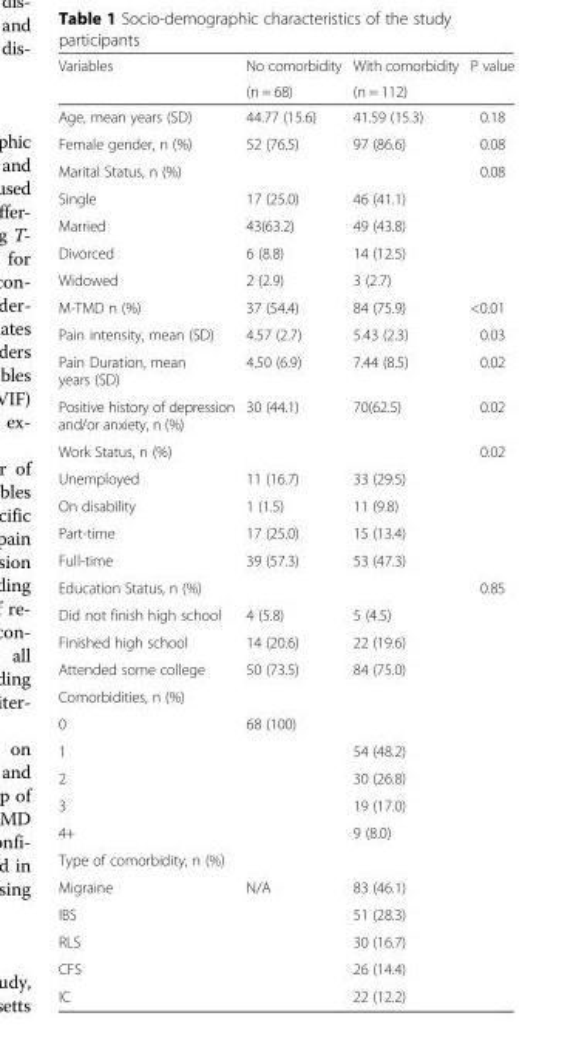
<table><thead><tr><td rowspan="2">Variables</td><td rowspan="2">No comorbidity (n = 68)</td><td rowspan="2">With comorbidity (n = 112)</td><td rowspan="2">P value</td></tr><tr></tr></thead><tbody><tr><td>Age, mean years (SD)</td><td>44.77 (15.6)</td><td>41.59 (15.3)</td><td>0.18</td></tr><tr><td>Female gender, n (%)</td><td>52 (76.5)</td><td>97 (86.6)</td><td>0.08</td></tr><tr><td>Marital Status, n (%)</td><td></td><td></td><td>0.08</td></tr><tr><td>Single</td><td>17 (25.0)</td><td>46 (41.1)</td><td></td></tr><tr><td>Married</td><td>43(63.2)</td><td>49 (43.8)</td><td></td></tr><tr><td>Divorced</td><td>6 (8.8)</td><td>14 (12.5)</td><td></td></tr><tr><td>Widowed</td><td>2 (2.9)</td><td>3 (2.7)</td><td></td></tr><tr><td>M-TMD n (%)</td><td>37 (54.4)</td><td>84 (75.9)</td><td>&lt;0.01</td></tr><tr><td>Pain intensity, mean (SD)</td><td>4.57 (2.7)</td><td>5.43 (2.3)</td><td>0.03</td></tr><tr><td>Pain Duration, mean years (SD)</td><td>4.50 (6.9)</td><td>7.44 (8.5)</td><td>0.02</td></tr><tr><td>Positive history of depression and/or anxiety, n (%)</td><td>30 (44.1)</td><td>70(62.5)</td><td>0.02</td></tr><tr><td>Work Status, n (%)</td><td></td><td></td><td>0.02</td></tr><tr><td>Unemployed</td><td>11 (16.7)</td><td>33 (29.5)</td><td></td></tr><tr><td>On disability</td><td>1 (1.5)</td><td>11 (9.8)</td><td></td></tr><tr><td>Part-time</td><td>17 (25.0)</td><td>15 (13.4)</td><td></td></tr><tr><td>Full-time</td><td>39 (57.3)</td><td>53 (47.3)</td><td></td></tr><tr><td>Education Status, n (%)</td><td></td><td></td><td>0.85</td></tr><tr><td>Did not finish high school</td><td>4 (5.8)</td><td>5 (4.5)</td><td></td></tr><tr><td>Finished high school</td><td>14 (20.6)</td><td>22 (19.6)</td><td></td></tr><tr><td>Attended some college</td><td>50 (73.5)</td><td>84 (75.0)</td><td></td></tr><tr><td colspan="4">Comorbidities, n (%)</td></tr><tr><td>0</td><td>68 (100)</td><td></td><td></td></tr><tr><td>1</td><td></td><td>54 (48.2)</td><td></td></tr><tr><td>2</td><td></td><td>30 (26.8)</td><td></td></tr><tr><td>3</td><td></td><td>19 (17.0)</td><td></td></tr><tr><td>4+</td><td></td><td>9 (8.0)</td><td></td></tr><tr><td colspan="4">Type of comorbidity, n (%)</td></tr><tr><td>Migraine</td><td>N/A</td><td>83 (46.1)</td><td></td></tr><tr><td>IBS</td><td></td><td>51 (28.3)</td><td></td></tr><tr><td>RLS</td><td></td><td>30 (16.7)</td><td></td></tr><tr><td>CFS</td><td></td><td>26 (14.4)</td><td></td></tr><tr><td>IC</td><td></td><td>22 (12.2)</td><td></td></tr></tbody></table>